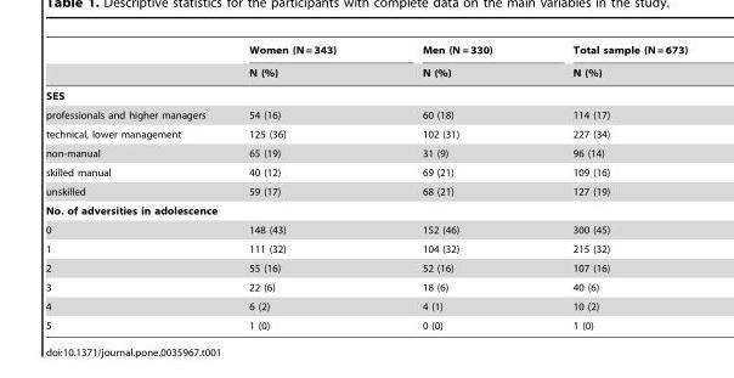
<table><thead><tr><td rowspan="2"></td><td rowspan="2">Women (N = 343) N (%)</td><td rowspan="2">Men (N = 330) N (%)</td><td rowspan="2">Total sample (N = 673) N (%)</td></tr><tr></tr></thead><tbody><tr><td colspan="4">SES</td></tr><tr><td>professionals and higher managers</td><td>54 (16)</td><td>60 (18)</td><td>114 (17)</td></tr><tr><td>technical, lower management</td><td>125 (36)</td><td>102 (31)</td><td>227 (34)</td></tr><tr><td>non-manual</td><td>65 (19)</td><td>31 (9)</td><td>96 (14)</td></tr><tr><td>skilled manual</td><td>40 (12)</td><td>69 (21)</td><td>109 (16)</td></tr><tr><td>unskilled</td><td>59 (17)</td><td>68 (21)</td><td>127 (19)</td></tr><tr><td colspan="4">No. of adversities in adolescence</td></tr><tr><td>0</td><td>148 (43)</td><td>152 (46)</td><td>300 (45)</td></tr><tr><td>1</td><td>111 (32)</td><td>104 (32)</td><td>215 (32)</td></tr><tr><td>2</td><td>55 (16)</td><td>52 (16)</td><td>107 (16)</td></tr><tr><td>3</td><td>22 (6)</td><td>18 (6)</td><td>40 (6)</td></tr><tr><td>4</td><td>6 (2)</td><td>4 (1)</td><td>10 (2)</td></tr><tr><td>5</td><td>1 (0)</td><td>0 (0)</td><td>1 (0)</td></tr></tbody></table>